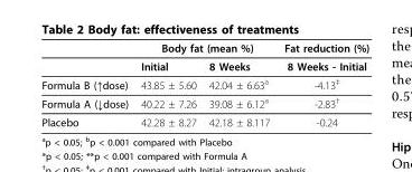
<table><thead><tr><td rowspan="2"></td><td colspan="2">Body fat (mean %)</td><td rowspan="2">Fat reduction (%) 8 Weeks - Initial</td></tr><tr><td>Initial</td><td>8 Weeks</td></tr></thead><tbody><tr><td>Formula B (↑dose)</td><td>43.85 ± 5.60</td><td>42.04 ± 6.63<sup>a</sup></td><td>-4.13<sup>‡</sup></td></tr><tr><td>Formula A (↓dose)</td><td>40.22 ± 7.26</td><td>39.08 ± 6.12<sup>a</sup></td><td>-2.83<sup>†</sup></td></tr><tr><td>Placebo</td><td>42.28 ± 8.27</td><td>42.18 ± 8.117</td><td>-0.24</td></tr></tbody></table>